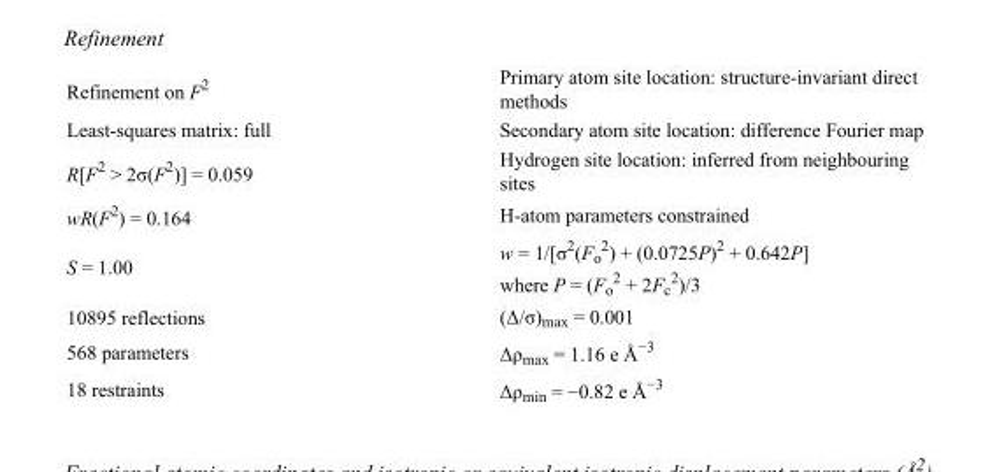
<table><tbody><tr><td>Refinement on F<sup>2</sup></td><td>Primary atom site location: structure-invariant direct methods</td></tr><tr><td>Least-squares matrix: full</td><td>Secondary atom site location: difference Fourier map</td></tr><tr><td>R[F<sup>2</sup> &gt; 2σ(F<sup>2</sup>)] = 0.059</td><td>Hydrogen site location: inferred from neighbouring sites</td></tr><tr><td>wR(F<sup>2</sup>) = 0.164</td><td>H-atom parameters constrained</td></tr><tr><td>S = 1.00</td><td>w = 1/[σ<sup>2</sup>(F<sub>o</sub> <sup>2</sup>) + (0.0725P)<sup>2</sup> + 0.642P] where P = (F<sub>o</sub> <sup>2</sup> + 2F<sub>c</sub> <sup>2</sup>)/3</td></tr><tr><td>10895 reflections</td><td>(Δ/σ)<sub>max</sub> = 0.001</td></tr><tr><td>568 parameters</td><td>Δρ<sub>max</sub> = 1.16 e Å<sup>−3</sup></td></tr><tr><td>18 restraints</td><td>Δρ<sub>min</sub> = −0.82 e Å<sup>−3</sup></td></tr></tbody></table>